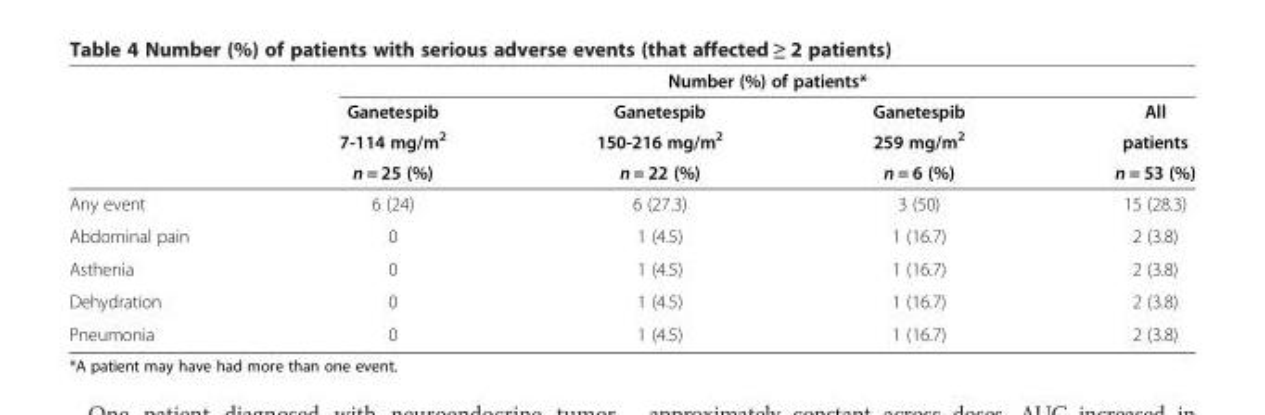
<table><thead><tr><td rowspan="4"></td><td colspan="4">Number (%) of patients*</td></tr><tr><td rowspan="3">Ganetespib 7-114 mg/m<sup>2</sup> n = 25 (%)</td><td rowspan="3">Ganetespib 150-216 mg/m<sup>2</sup> n = 22 (%)</td><td rowspan="3">Ganetespib 259 mg/m<sup>2</sup> n = 6 (%)</td><td rowspan="3">All patients n = 53 (%)</td></tr><tr></tr><tr></tr></thead><tbody><tr><td>Any event</td><td>6 (24)</td><td>6 (27.3)</td><td>3 (50)</td><td>15 (28.3)</td></tr><tr><td>Abdominal pain</td><td>0</td><td>1 (4.5)</td><td>1 (16.7)</td><td>2 (3.8)</td></tr><tr><td>Asthenia</td><td>0</td><td>1 (4.5)</td><td>1 (16.7)</td><td>2 (3.8)</td></tr><tr><td>Dehydration</td><td>0</td><td>1 (4.5)</td><td>1 (16.7)</td><td>2 (3.8)</td></tr><tr><td>Pneumonia</td><td>0</td><td>1 (4.5)</td><td>1 (16.7)</td><td>2 (3.8)</td></tr></tbody></table>